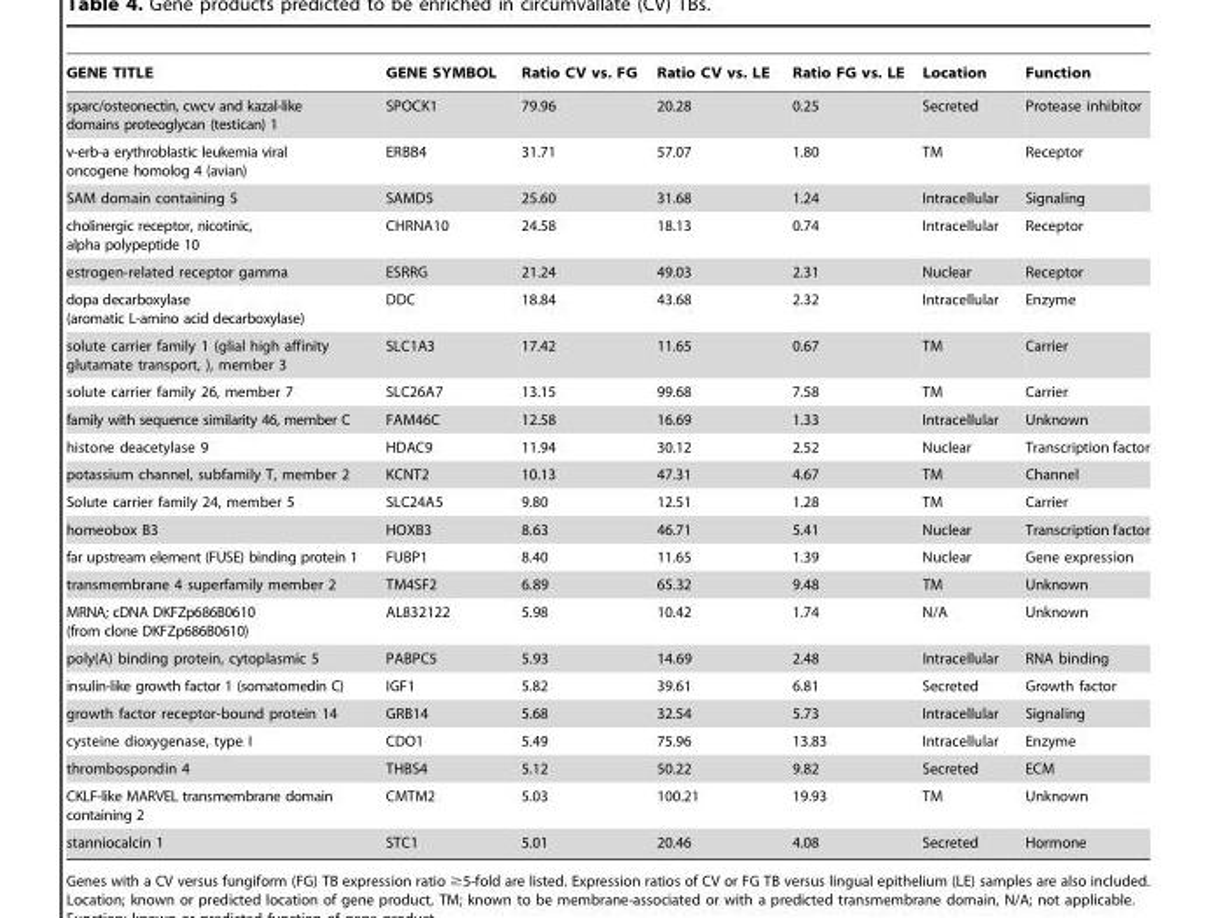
<table><thead><tr><td>GENE TITLE</td><td>GENE SYMBOL</td><td>Ratio CV vs. FG</td><td>Ratio CV vs. LE</td><td>Ratio FG vs. LE</td><td>Location</td><td>Function</td></tr></thead><tbody><tr><td>sparc/osteonectin, cwcv and kazal-like domains proteoglycan (testican) 1</td><td>SPOCK1</td><td>79.96</td><td>20.28</td><td>0.25</td><td>Secreted</td><td>Protease inhibitor</td></tr><tr><td>v-erb-a erythroblastic leukemia viral oncogene homolog 4 (avian)</td><td>ERBB4</td><td>31.71</td><td>57.07</td><td>1.80</td><td>TM</td><td>Receptor</td></tr><tr><td>SAM domain containing 5</td><td>SAMD5</td><td>25.60</td><td>31.68</td><td>1.24</td><td>Intracellular</td><td>Signaling</td></tr><tr><td>cholinergic receptor, nicotinic, alpha polypeptide 10</td><td>CHRNA10</td><td>24.58</td><td>18.13</td><td>0.74</td><td>Intracellular</td><td>Receptor</td></tr><tr><td>estrogen-related receptor gamma</td><td>ESRRG</td><td>21.24</td><td>49.03</td><td>2.31</td><td>Nuclear</td><td>Receptor</td></tr><tr><td>dopa decarboxylase (aromatic L-amino acid decarboxylase)</td><td>DDC</td><td>18.84</td><td>43.68</td><td>2.32</td><td>Intracellular</td><td>Enzyme</td></tr><tr><td>solute carrier family 1 (glial high affinity glutamate transport, ), member 3</td><td>SLC1A3</td><td>17.42</td><td>11.65</td><td>0.67</td><td>TM</td><td>Carrier</td></tr><tr><td>solute carrier family 26, member 7</td><td>SLC26A7</td><td>13.15</td><td>99.68</td><td>7.58</td><td>TM</td><td>Carrier</td></tr><tr><td>family with sequence similarity 46, member C</td><td>FAM46C</td><td>12.58</td><td>16.69</td><td>1.33</td><td>Intracellular</td><td>Unknown</td></tr><tr><td>histone deacetylase 9</td><td>HDAC9</td><td>11.94</td><td>30.12</td><td>2.52</td><td>Nuclear</td><td>Transcription factor</td></tr><tr><td>potassium channel, subfamily T, member 2</td><td>KCNT2</td><td>10.13</td><td>47.31</td><td>4.67</td><td>TM</td><td>Channel</td></tr><tr><td>Solute carrier family 24, member 5</td><td>SLC24A5</td><td>9.80</td><td>12.51</td><td>1.28</td><td>TM</td><td>Carrier</td></tr><tr><td>homeobox B3</td><td>HOXB3</td><td>8.63</td><td>46.71</td><td>5.41</td><td>Nuclear</td><td>Transcription factor</td></tr><tr><td>far upstream element (FUSE) binding protein 1</td><td>FUBP1</td><td>8.40</td><td>11.65</td><td>1.39</td><td>Nuclear</td><td>Gene expression</td></tr><tr><td>transmembrane 4 superfamily member 2</td><td>TM4SF2</td><td>6.89</td><td>65.32</td><td>9.48</td><td>TM</td><td>Unknown</td></tr><tr><td>MRNA; cDNA DKFZp686B0610 (from clone DKFZp686B0610)</td><td>AL832122</td><td>5.98</td><td>10.42</td><td>1.74</td><td>N/A</td><td>Unknown</td></tr><tr><td>poly(A) binding protein, cytoplasmic 5</td><td>PABPC5</td><td>5.93</td><td>14.69</td><td>2.48</td><td>Intracellular</td><td>RNA binding</td></tr><tr><td>insulin-like growth factor 1 (somatomedin C)</td><td>IGF1</td><td>5.82</td><td>39.61</td><td>6.81</td><td>Secreted</td><td>Growth factor</td></tr><tr><td>growth factor receptor-bound protein 14</td><td>GRB14</td><td>5.68</td><td>32.54</td><td>5.73</td><td>Intracellular</td><td>Signaling</td></tr><tr><td>cysteine dioxygenase, type I</td><td>CDO1</td><td>5.49</td><td>75.96</td><td>13.83</td><td>Intracellular</td><td>Enzyme</td></tr><tr><td>thrombospondin 4</td><td>THBS4</td><td>5.12</td><td>50.22</td><td>9.82</td><td>Secreted</td><td>ECM</td></tr><tr><td>CKLF-like MARVEL transmembrane domain containing 2</td><td>CMTM2</td><td>5.03</td><td>100.21</td><td>19.93</td><td>TM</td><td>Unknown</td></tr><tr><td>stanniocalcin 1</td><td>STC1</td><td>5.01</td><td>20.46</td><td>4.08</td><td>Secreted</td><td>Hormone</td></tr></tbody></table>